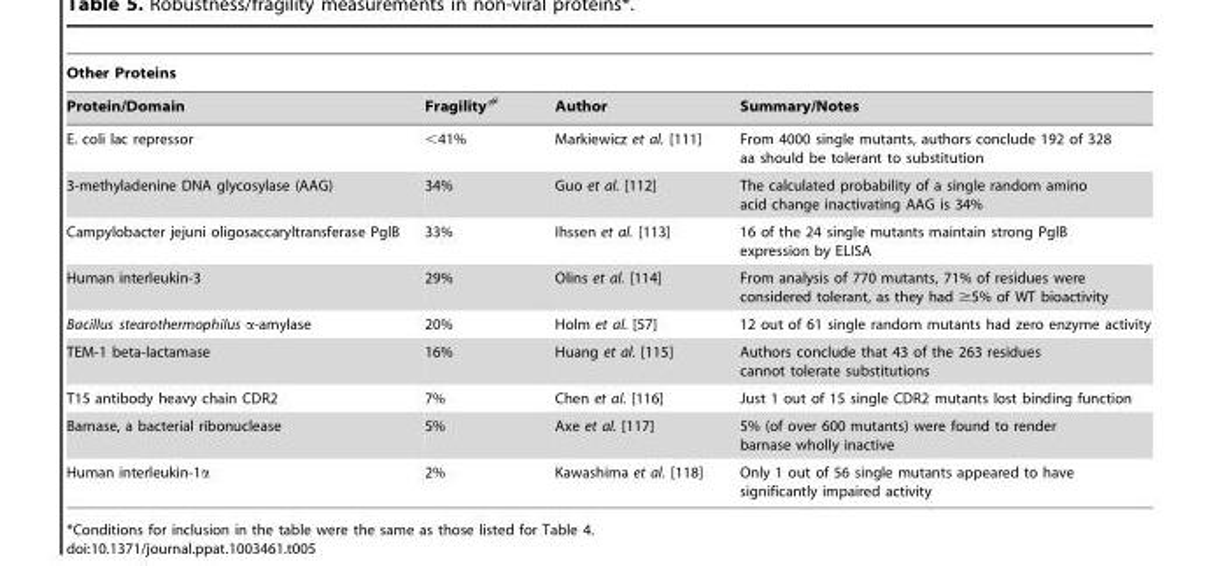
<table><thead><tr><td colspan="4">Other Proteins</td></tr><tr><td>Protein/Domain</td><td>Fragility<sup>#</sup></td><td>Author</td><td>Summary/Notes</td></tr></thead><tbody><tr><td>E. coli lac repressor</td><td>&lt;41%</td><td>Markiewicz et al. [111]</td><td>From 4000 single mutants, authors conclude 192 of 328 aa should be tolerant to substitution</td></tr><tr><td>3-methyladenine DNA glycosylase (AAG)</td><td>34%</td><td>Guo et al. [112]</td><td>The calculated probability of a single random amino acid change inactivating AAG is 34%</td></tr><tr><td>Campylobacter jejuni oligosaccaryltransferase PglB</td><td>33%</td><td>Ihssen et al. [113]</td><td>16 of the 24 single mutants maintain strong PglB expression by ELISA</td></tr><tr><td>Human interleukin-3</td><td>29%</td><td>Olins et al. [114]</td><td>From analysis of 770 mutants, 71% of residues were considered tolerant, as they had ≥5% of WT bioactivity</td></tr><tr><td>Bacillus stearothermophilus α-amylase</td><td>20%</td><td>Holm et al. [57]</td><td>12 out of 61 single random mutants had zero enzyme activity</td></tr><tr><td>TEM-1 beta-lactamase</td><td>16%</td><td>Huang et al. [115]</td><td>Authors conclude that 43 of the 263 residues cannot tolerate substitutions</td></tr><tr><td>T15 antibody heavy chain CDR2</td><td>7%</td><td>Chen et al. [116]</td><td>Just 1 out of 15 single CDR2 mutants lost binding function</td></tr><tr><td>Barnase, a bacterial ribonuclease</td><td>5%</td><td>Axe et al. [117]</td><td>5% (of over 600 mutants) were found to render barnase wholly inactive</td></tr><tr><td>Human interleukin-1α</td><td>2%</td><td>Kawashima et al. [118]</td><td>Only 1 out of 56 single mutants appeared to have significantly impaired activity</td></tr></tbody></table>